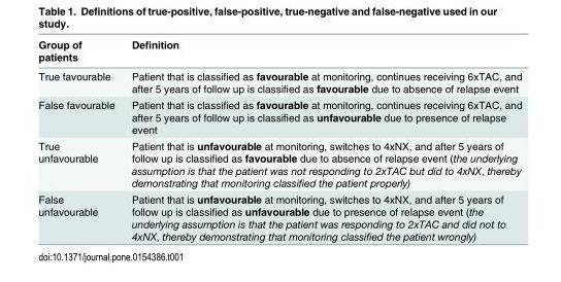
<table><thead><tr><td>Group of patients</td><td>Definition</td></tr></thead><tbody><tr><td>True favourable</td><td>Patient that is classified as favourable at monitoring, continues receiving 6xTAC, and after 5 years of follow up is classified as favourable due to absence of relapse event</td></tr><tr><td>False favourable</td><td>Patient that is classified as favourable at monitoring, continues receiving 6xTAC, and after 5 years of follow up is classified as unfavourable due to presence of relapse event</td></tr><tr><td>True unfavourable</td><td>Patient that is unfavourable at monitoring, switches to 4xNX, and after 5 years of follow up is classified as favourable due to absence of relapse event (the underlying assumption is that the patient was not responding to 2xTAC but did to 4xNX, thereby demonstrating that monitoring classified the patient properly)</td></tr><tr><td>False unfavourable</td><td>Patient that is unfavourable at monitoring, switches to 4xNX, and after 5 years of follow up is classified as unfavourable due to presence of relapse event (the underlying assumption is that the patient was responding to 2xTAC and did not to 4xNX, thereby demonstrating that monitoring classified the patient wrongly)</td></tr></tbody></table>